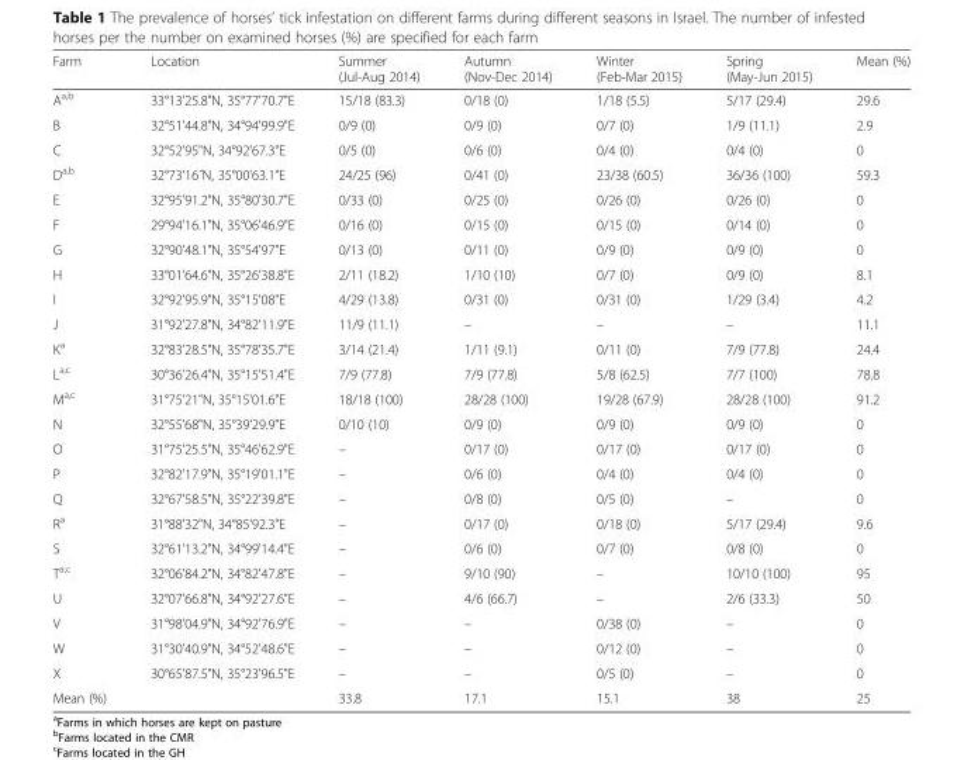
<table><thead><tr><td>Farm</td><td>Location</td><td>Summer (Jul-Aug 2014)</td><td>Autumn (Nov-Dec 2014)</td><td>Winter (Feb-Mar 2015)</td><td>Spring (May-Jun 2015)</td><td>Mean (%)</td></tr></thead><tbody><tr><td>A<sup>a,b</sup></td><td>33°13&#x27;25.8&quot;N, 35°77&#x27;70.7&quot;E</td><td>15/18 (83.3)</td><td>0/18 (0)</td><td>1/18 (5.5)</td><td>5/17 (29.4)</td><td>29.6</td></tr><tr><td>B</td><td>32°51&#x27;44.8&quot;N, 34°94&#x27;99.9&quot;E</td><td>0/9 (0)</td><td>0/9 (0)</td><td>0/7 (0)</td><td>1/9 (11.1)</td><td>2.9</td></tr><tr><td>C</td><td>32°52&#x27;95&quot;N, 34°92&#x27;67.3&quot;E</td><td>0/5 (0)</td><td>0/6 (0)</td><td>0/4 (0)</td><td>0/4 (0)</td><td>0</td></tr><tr><td>D<sup>a,b</sup></td><td>32°73&#x27;16˝N, 35°00&#x27;63.1&quot;E</td><td>24/25 (96)</td><td>0/41 (0)</td><td>23/38 (60.5)</td><td>36/36 (100)</td><td>59.3</td></tr><tr><td>E</td><td>32°95&#x27;91.2&quot;N, 35°80&#x27;30.7&quot;E</td><td>0/33 (0)</td><td>0/25 (0)</td><td>0/26 (0)</td><td>0/26 (0)</td><td>0</td></tr><tr><td>F</td><td>29°94&#x27;16.1&quot;N, 35°06&#x27;46.9&quot;E</td><td>0/16 (0)</td><td>0/15 (0)</td><td>0/15 (0)</td><td>0/14 (0)</td><td>0</td></tr><tr><td>G</td><td>32°90&#x27;48.1&quot;N, 35°54&#x27;97&quot;E</td><td>0/13 (0)</td><td>0/11 (0)</td><td>0/9 (0)</td><td>0/9 (0)</td><td>0</td></tr><tr><td>H</td><td>33°01&#x27;64.6&quot;N, 35°26&#x27;38.8&quot;E</td><td>2/11 (18.2)</td><td>1/10 (10)</td><td>0/7 (0)</td><td>0/9 (0)</td><td>8.1</td></tr><tr><td>I</td><td>32°92&#x27;95.9&quot;N, 35°15&#x27;08&quot;E</td><td>4/29 (13.8)</td><td>0/31 (0)</td><td>0/31 (0)</td><td>1/29 (3.4)</td><td>4.2</td></tr><tr><td>J</td><td>31°92&#x27;27.8&quot;N, 34°82&#x27;11.9&quot;E</td><td>11/9 (11.1)</td><td>–</td><td>–</td><td>–</td><td>11.1</td></tr><tr><td>K<sup>a</sup></td><td>32°83&#x27;28.5&quot;N, 35°78&#x27;35.7&quot;E</td><td>3/14 (21.4)</td><td>1/11 (9.1)</td><td>0/11 (0)</td><td>7/9 (77.8)</td><td>24.4</td></tr><tr><td>L<sup>a,c</sup></td><td>30°36&#x27;26.4&quot;N, 35°15&#x27;51.4&quot;E</td><td>7/9 (77.8)</td><td>7/9 (77.8)</td><td>5/8 (62.5)</td><td>7/7 (100)</td><td>78.8</td></tr><tr><td>M<sup>a,c</sup></td><td>31°75&#x27;21&quot;N, 35°15&#x27;01.6&quot;E</td><td>18/18 (100)</td><td>28/28 (100)</td><td>19/28 (67.9)</td><td>28/28 (100)</td><td>91.2</td></tr><tr><td>N</td><td>32°55&#x27;68&quot;N, 35°39&#x27;29.9&quot;E</td><td>0/10 (10)</td><td>0/9 (0)</td><td>0/9 (0)</td><td>0/9 (0)</td><td>0</td></tr><tr><td>O</td><td>31°75&#x27;25.5&quot;N, 35°46&#x27;62.9&quot;E</td><td>–</td><td>0/17 (0)</td><td>0/17 (0)</td><td>0/17 (0)</td><td>0</td></tr><tr><td>P</td><td>32°82&#x27;17.9&quot;N, 35°19&#x27;01.1&quot;E</td><td>–</td><td>0/6 (0)</td><td>0/4 (0)</td><td>0/4 (0)</td><td>0</td></tr><tr><td>Q</td><td>32°67&#x27;58.5&quot;N, 35°22&#x27;39.8&quot;E</td><td>–</td><td>0/8 (0)</td><td>0/5 (0)</td><td>–</td><td>0</td></tr><tr><td>R<sup>a</sup></td><td>31°88&#x27;32&quot;N, 34°85&#x27;92.3&quot;E</td><td>–</td><td>0/17 (0)</td><td>0/18 (0)</td><td>5/17 (29.4)</td><td>9.6</td></tr><tr><td>S</td><td>32°61&#x27;13.2&quot;N, 34°99&#x27;14.4&quot;E</td><td>–</td><td>0/6 (0)</td><td>0/7 (0)</td><td>0/8 (0)</td><td>0</td></tr><tr><td>T<sup>a,c</sup></td><td>32°06&#x27;84.2&quot;N, 34°82&#x27;47.8&quot;E</td><td>–</td><td>9/10 (90)</td><td>–</td><td>10/10 (100)</td><td>95</td></tr><tr><td>U</td><td>32°07&#x27;66.8&quot;N, 34°92&#x27;27.6&quot;E</td><td>–</td><td>4/6 (66.7)</td><td>–</td><td>2/6 (33.3)</td><td>50</td></tr><tr><td>V</td><td>31°98&#x27;04.9&quot;N, 34°92&#x27;76.9&quot;E</td><td>–</td><td>–</td><td>0/38 (0)</td><td>–</td><td>0</td></tr><tr><td>W</td><td>31°30&#x27;40.9&quot;N, 34°52&#x27;48.6&quot;E</td><td>–</td><td>–</td><td>0/12 (0)</td><td>–</td><td>0</td></tr><tr><td>X</td><td>30°65&#x27;87.5&quot;N, 35°23&#x27;96.5&quot;E</td><td>–</td><td>–</td><td>0/5 (0)</td><td>–</td><td>0</td></tr><tr><td>Mean (%)</td><td></td><td>33.8</td><td>17.1</td><td>15.1</td><td>38</td><td>25</td></tr></tbody></table>